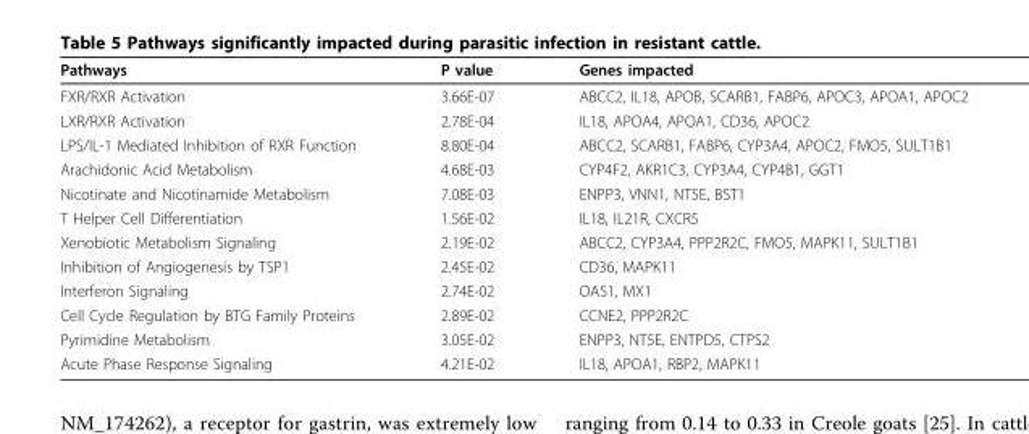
<table><thead><tr><td>Pathways</td><td>P value</td><td>Genes impacted</td></tr></thead><tbody><tr><td>FXR/RXR Activation</td><td>3.66E-07</td><td>ABCC2, IL18, APOB, SCARB1, FABP6, APOC3, APOA1, APOC2</td></tr><tr><td>LXR/RXR Activation</td><td>2.78E-04</td><td>IL18, APOA4, APOA1, CD36, APOC2</td></tr><tr><td>LPS/IL-1 Mediated Inhibition of RXR Function</td><td>8.80E-04</td><td>ABCC2, SCARB1, FABP6, CYP3A4, APOC2, FMO5, SULT1B1</td></tr><tr><td>Arachidonic Acid Metabolism</td><td>4.68E-03</td><td>CYP4F2, AKR1C3, CYP3A4, CYP4B1, GGT1</td></tr><tr><td>Nicotinate and Nicotinamide Metabolism</td><td>7.08E-03</td><td>ENPP3, VNN1, NT5E, BST1</td></tr><tr><td>T Helper Cell Differentiation</td><td>1.56E-02</td><td>IL18, IL21R, CXCR5</td></tr><tr><td>Xenobiotic Metabolism Signaling</td><td>2.19E-02</td><td>ABCC2, CYP3A4, PPP2R2C, FMO5, MAPK11, SULT1B1</td></tr><tr><td>Inhibition of Angiogenesis by TSP1</td><td>2.45E-02</td><td>CD36, MAPK11</td></tr><tr><td>Interferon Signaling</td><td>2.74E-02</td><td>OAS1, MX1</td></tr><tr><td>Cell Cycle Regulation by BTG Family Proteins</td><td>2.89E-02</td><td>CCNE2, PPP2R2C</td></tr><tr><td>Pyrimidine Metabolism</td><td>3.05E-02</td><td>ENPP3, NT5E, ENTPD5, CTPS2</td></tr><tr><td>Acute Phase Response Signaling</td><td>4.21E-02</td><td>IL18, APOA1, RBP2, MAPK11</td></tr></tbody></table>